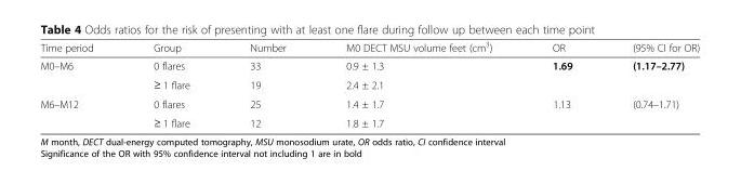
<table><thead><tr><td>Time period</td><td>Group</td><td>Number</td><td>M0 DECT MSU volume feet (cm<sup>3</sup>)</td><td>OR</td><td>(95% CI for OR)</td></tr></thead><tbody><tr><td rowspan="2">M0–M6</td><td>0 flares</td><td>33</td><td>0.9 ± 1.3</td><td rowspan="2">1.69</td><td rowspan="2">(1.17–2.77)</td></tr><tr><td>≥ 1 flare</td><td>19</td><td>2.4 ± 2.1</td></tr><tr><td rowspan="2">M6–M12</td><td>0 flares</td><td>25</td><td>1.4 ± 1.7</td><td rowspan="2">1.13</td><td rowspan="2">(0.74–1.71)</td></tr><tr><td>≥ 1 flare</td><td>12</td><td>1.8 ± 1.7</td></tr></tbody></table>